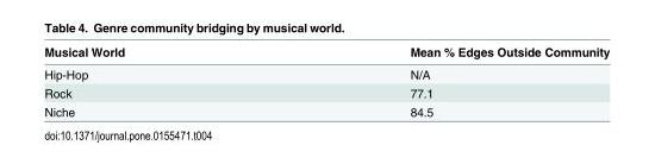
<table><thead><tr><td>Musical World</td><td>Mean % Edges Outside Community</td></tr></thead><tbody><tr><td>Hip-Hop</td><td>N/A</td></tr><tr><td>Rock</td><td>77.1</td></tr><tr><td>Niche</td><td>84.5</td></tr></tbody></table>